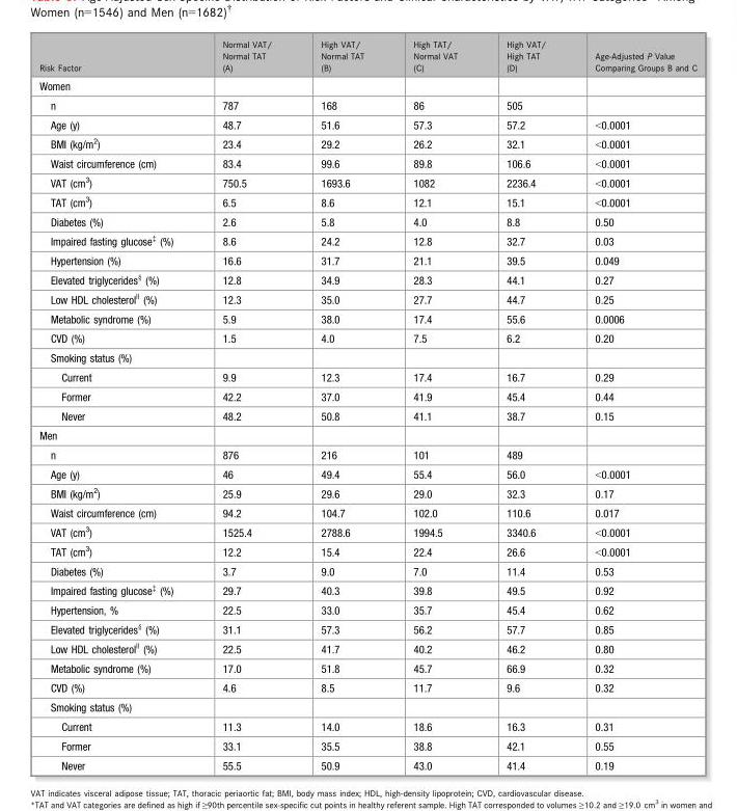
<table><thead><tr><td>Risk Factor</td><td>Normal VAT/ Normal TAT (A)</td><td>High VAT/ Normal TAT (B)</td><td>High TAT/ Normal VAT (C)</td><td>High VAT/ High TAT (D)</td><td>Age-Adjusted P Value Comparing Groups B and C</td></tr></thead><tbody><tr><td colspan="6">Women</td></tr><tr><td>n</td><td>787</td><td>168</td><td>86</td><td>505</td><td></td></tr><tr><td>Age (y)</td><td>48.7</td><td>51.6</td><td>57.3</td><td>57.2</td><td>&lt;0.0001</td></tr><tr><td>BMI (kg/m<sup>2</sup>)</td><td>23.4</td><td>29.2</td><td>26.2</td><td>32.1</td><td>&lt;0.0001</td></tr><tr><td>Waist circumference (cm)</td><td>83.4</td><td>99.6</td><td>89.8</td><td>106.6</td><td>&lt;0.0001</td></tr><tr><td>VAT (cm<sup>3</sup>)</td><td>750.5</td><td>1693.6</td><td>1082</td><td>2236.4</td><td>&lt;0.0001</td></tr><tr><td>TAT (cm<sup>3</sup>)</td><td>6.5</td><td>8.6</td><td>12.1</td><td>15.1</td><td>&lt;0.0001</td></tr><tr><td>Diabetes (%)</td><td>2.6</td><td>5.8</td><td>4.0</td><td>8.8</td><td>0.50</td></tr><tr><td>Impaired fasting glucose‡ (%)</td><td>8.6</td><td>24.2</td><td>12.8</td><td>32.7</td><td>0.03</td></tr><tr><td>Hypertension (%)</td><td>16.6</td><td>31.7</td><td>21.1</td><td>39.5</td><td>0.049</td></tr><tr><td>Elevated triglycerides§ (%)</td><td>12.8</td><td>34.9</td><td>28.3</td><td>44.1</td><td>0.27</td></tr><tr><td>Low HDL cholesterol|| (%)</td><td>12.3</td><td>35.0</td><td>27.7</td><td>44.7</td><td>0.25</td></tr><tr><td>Metabolic syndrome (%)</td><td>5.9</td><td>38.0</td><td>17.4</td><td>55.6</td><td>0.0006</td></tr><tr><td>CVD (%)</td><td>1.5</td><td>4.0</td><td>7.5</td><td>6.2</td><td>0.20</td></tr><tr><td colspan="6">Smoking status (%)</td></tr><tr><td>Current</td><td>9.9</td><td>12.3</td><td>17.4</td><td>16.7</td><td>0.29</td></tr><tr><td>Former</td><td>42.2</td><td>37.0</td><td>41.9</td><td>45.4</td><td>0.44</td></tr><tr><td>Never</td><td>48.2</td><td>50.8</td><td>41.1</td><td>38.7</td><td>0.15</td></tr><tr><td colspan="6">Men</td></tr><tr><td>n</td><td>876</td><td>216</td><td>101</td><td>489</td><td></td></tr><tr><td>Age (y)</td><td>46</td><td>49.4</td><td>55.4</td><td>56.0</td><td>&lt;0.0001</td></tr><tr><td>BMI (kg/m<sup>2</sup>)</td><td>25.9</td><td>29.6</td><td>29.0</td><td>32.3</td><td>0.17</td></tr><tr><td>Waist circumference (cm)</td><td>94.2</td><td>104.7</td><td>102.0</td><td>110.6</td><td>0.017</td></tr><tr><td>VAT (cm<sup>3</sup>)</td><td>1525.4</td><td>2788.6</td><td>1994.5</td><td>3340.6</td><td>&lt;0.0001</td></tr><tr><td>TAT (cm<sup>3</sup>)</td><td>12.2</td><td>15.4</td><td>22.4</td><td>26.6</td><td>&lt;0.0001</td></tr><tr><td>Diabetes (%)</td><td>3.7</td><td>9.0</td><td>7.0</td><td>11.4</td><td>0.53</td></tr><tr><td>Impaired fasting glucose‡ (%)</td><td>29.7</td><td>40.3</td><td>39.8</td><td>49.5</td><td>0.92</td></tr><tr><td>Hypertension, %</td><td>22.5</td><td>33.0</td><td>35.7</td><td>45.4</td><td>0.62</td></tr><tr><td>Elevated triglycerides§ (%)</td><td>31.1</td><td>57.3</td><td>56.2</td><td>57.7</td><td>0.85</td></tr><tr><td>Low HDL cholesterol|| (%)</td><td>22.5</td><td>41.7</td><td>40.2</td><td>46.2</td><td>0.80</td></tr><tr><td>Metabolic syndrome (%)</td><td>17.0</td><td>51.8</td><td>45.7</td><td>66.9</td><td>0.32</td></tr><tr><td>CVD (%)</td><td>4.6</td><td>8.5</td><td>11.7</td><td>9.6</td><td>0.32</td></tr><tr><td colspan="6">Smoking status (%)</td></tr><tr><td>Current</td><td>11.3</td><td>14.0</td><td>18.6</td><td>16.3</td><td>0.31</td></tr><tr><td>Former</td><td>33.1</td><td>35.5</td><td>38.8</td><td>42.1</td><td>0.55</td></tr><tr><td>Never</td><td>55.5</td><td>50.9</td><td>43.0</td><td>41.4</td><td>0.19</td></tr></tbody></table>